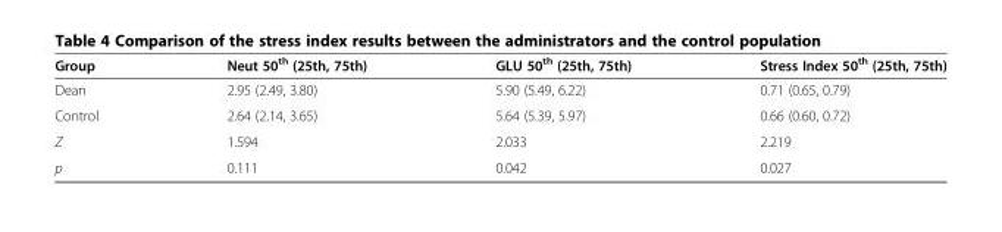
<table><thead><tr><td>Group</td><td>Neut 50<sup>th</sup> (25th, 75th)</td><td>GLU 50<sup>th</sup> (25th, 75th)</td><td>Stress Index 50<sup>th</sup> (25th, 75th)</td></tr></thead><tbody><tr><td>Dean</td><td>2.95 (2.49, 3.80)</td><td>5.90 (5.49, 6.22)</td><td>0.71 (0.65, 0.79)</td></tr><tr><td>Control</td><td>2.64 (2.14, 3.65)</td><td>5.64 (5.39, 5.97)</td><td>0.66 (0.60, 0.72)</td></tr><tr><td>Z</td><td>1.594</td><td>2.033</td><td>2.219</td></tr><tr><td>p</td><td>0.111</td><td>0.042</td><td>0.027</td></tr></tbody></table>